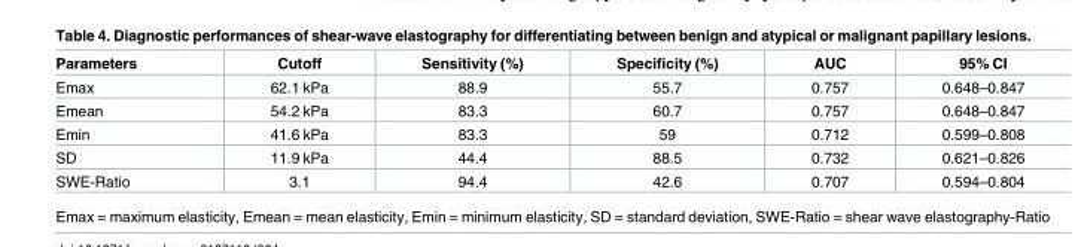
<table><thead><tr><td>Parameters</td><td>Cutoff</td><td>Sensitivity (%)</td><td>Specificity (%)</td><td>AUC</td><td>95% CI</td></tr></thead><tbody><tr><td>Emax</td><td>62.1 kPa</td><td>88.9</td><td>55.7</td><td>0.757</td><td>0.648–0.847</td></tr><tr><td>Emean</td><td>54.2 kPa</td><td>83.3</td><td>60.7</td><td>0.757</td><td>0.648–0.847</td></tr><tr><td>Emin</td><td>41.6 kPa</td><td>83.3</td><td>59</td><td>0.712</td><td>0.599–0.808</td></tr><tr><td>SD</td><td>11.9 kPa</td><td>44.4</td><td>88.5</td><td>0.732</td><td>0.621–0.826</td></tr><tr><td>SWE-Ratio</td><td>3.1</td><td>94.4</td><td>42.6</td><td>0.707</td><td>0.594–0.804</td></tr></tbody></table>